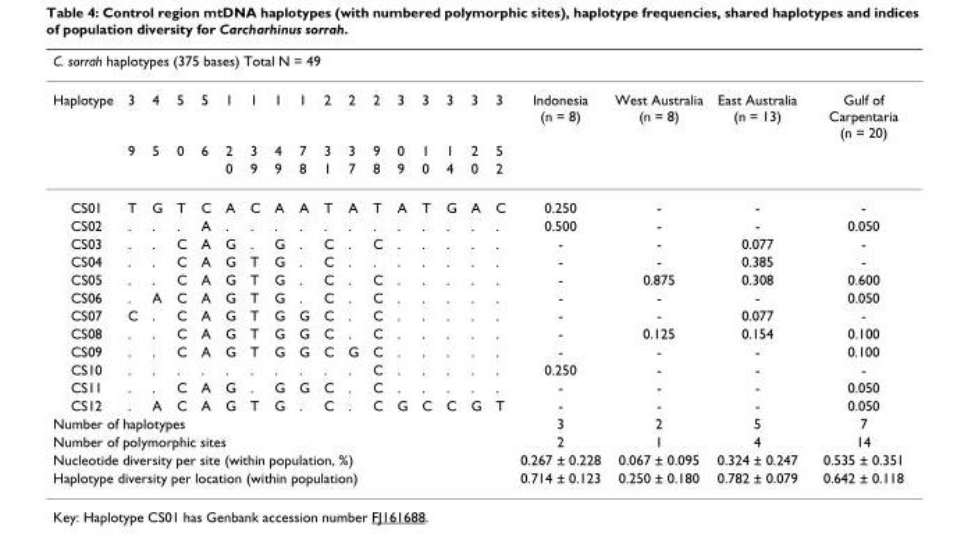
<table><thead><tr><td colspan="21">C. sorrah haplotypes (375 bases) Total N = 49</td></tr><tr><td>Haplotype</td><td>3</td><td>4</td><td>5</td><td>5</td><td>1</td><td>1</td><td>1</td><td>1</td><td>2</td><td>2</td><td>2</td><td>3</td><td>3</td><td>3</td><td>3</td><td>3</td><td>Indonesia (n = 8)</td><td>West Australia (n = 8)</td><td>East Australia (n = 13)</td><td>Gulf of Carpentaria (n = 20)</td></tr></thead><tbody><tr><td></td><td>9</td><td>5</td><td>0</td><td>6</td><td>2</td><td>3</td><td>4</td><td>7</td><td>3</td><td>3</td><td>9</td><td>0</td><td>1</td><td>1</td><td>2</td><td>5</td><td></td><td></td><td></td><td></td></tr><tr><td></td><td></td><td></td><td></td><td></td><td>0</td><td>9</td><td>9</td><td>8</td><td>1</td><td>7</td><td>8</td><td>9</td><td>0</td><td>4</td><td>0</td><td>2</td><td></td><td></td><td></td><td></td></tr><tr><td>CS01</td><td>T</td><td>G</td><td>T</td><td>C</td><td>A</td><td>C</td><td>A</td><td>A</td><td>T</td><td>A</td><td>T</td><td>A</td><td>T</td><td>G</td><td>A</td><td>C</td><td>0.250</td><td>-</td><td>-</td><td>-</td></tr><tr><td>CS02</td><td>.</td><td>.</td><td>.</td><td>A</td><td>.</td><td>.</td><td>.</td><td>.</td><td>.</td><td>.</td><td>.</td><td>.</td><td>.</td><td>.</td><td>.</td><td>.</td><td>0.500</td><td>-</td><td>-</td><td>0.050</td></tr><tr><td>CS03</td><td>.</td><td>.</td><td>C</td><td>A</td><td>G</td><td>.</td><td>G</td><td>.</td><td>C</td><td>.</td><td>C</td><td>.</td><td>.</td><td>.</td><td>.</td><td>.</td><td>-</td><td>-</td><td>0.077</td><td>-</td></tr><tr><td>CS04</td><td>.</td><td>.</td><td>C</td><td>A</td><td>G</td><td>T</td><td>G</td><td>.</td><td>C</td><td>.</td><td>.</td><td>.</td><td>.</td><td>.</td><td>.</td><td>.</td><td>-</td><td>-</td><td>0.385</td><td>-</td></tr><tr><td>CS05</td><td>.</td><td>.</td><td>C</td><td>A</td><td>G</td><td>T</td><td>G</td><td>.</td><td>C</td><td>.</td><td>C</td><td>.</td><td>.</td><td>.</td><td>.</td><td>.</td><td>-</td><td>0.875</td><td>0.308</td><td>0.600</td></tr><tr><td>CS06</td><td>.</td><td>A</td><td>C</td><td>A</td><td>G</td><td>T</td><td>G</td><td>.</td><td>C</td><td>.</td><td>C</td><td>.</td><td>.</td><td>.</td><td>.</td><td>.</td><td>-</td><td>-</td><td>-</td><td>0.050</td></tr><tr><td>CS07</td><td>C</td><td>.</td><td>C</td><td>A</td><td>G</td><td>T</td><td>G</td><td>G</td><td>C</td><td>.</td><td>C</td><td>.</td><td>.</td><td>.</td><td>.</td><td>.</td><td>-</td><td>-</td><td>0.077</td><td>-</td></tr><tr><td>CS08</td><td>.</td><td>.</td><td>C</td><td>A</td><td>G</td><td>T</td><td>G</td><td>G</td><td>C</td><td>.</td><td>C</td><td>.</td><td>.</td><td>.</td><td>.</td><td>.</td><td>-</td><td>0.125</td><td>0.154</td><td>0.100</td></tr><tr><td>CS09</td><td>.</td><td>.</td><td>C</td><td>A</td><td>G</td><td>T</td><td>G</td><td>G</td><td>C</td><td>G</td><td>C</td><td>.</td><td>.</td><td>.</td><td>.</td><td>.</td><td>-</td><td>-</td><td>-</td><td>0.100</td></tr><tr><td>CS10</td><td>.</td><td>.</td><td>.</td><td>.</td><td>.</td><td>.</td><td>.</td><td>.</td><td>.</td><td>.</td><td>C</td><td>.</td><td>.</td><td>.</td><td>.</td><td>.</td><td>0.250</td><td>-</td><td>-</td><td>-</td></tr><tr><td>CS11</td><td>.</td><td>.</td><td>C</td><td>A</td><td>G</td><td>.</td><td>G</td><td>G</td><td>C</td><td>.</td><td>C</td><td>.</td><td>.</td><td>.</td><td>.</td><td>.</td><td>-</td><td>-</td><td>-</td><td>0.050</td></tr><tr><td>CS12</td><td>.</td><td>A</td><td>C</td><td>A</td><td>G</td><td>T</td><td>G</td><td>.</td><td>C</td><td>.</td><td>C</td><td>G</td><td>C</td><td>C</td><td>G</td><td>T</td><td>-</td><td>-</td><td>-</td><td>0.050</td></tr><tr><td colspan="17">Number of haplotypes</td><td>3</td><td>2</td><td>5</td><td>7</td></tr><tr><td colspan="17">Number of polymorphic sites</td><td>2</td><td>1</td><td>4</td><td>14</td></tr><tr><td colspan="17">Nucleotide diversity per site (within population, %)</td><td>0.267 ± 0.228</td><td>0.067 ± 0.095</td><td>0.324 ± 0.247</td><td>0.535 ± 0.351</td></tr><tr><td colspan="17">Haplotype diversity per location (within population)</td><td>0.714 ± 0.123</td><td>0.250 ± 0.180</td><td>0.782 ± 0.079</td><td>0.642 ± 0.118</td></tr></tbody></table>